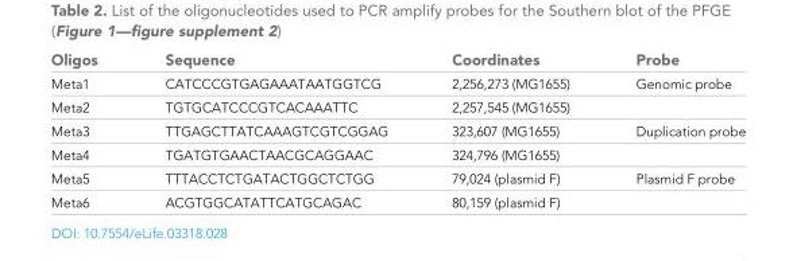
<table><thead><tr><td>Oligos</td><td>Sequence</td><td>Coordinates</td><td>Probe</td></tr></thead><tbody><tr><td>Meta1</td><td>CATCCCGTGAGAAATAATGGTCG</td><td>2,256,273 (MG1655)</td><td>Genomic probe</td></tr><tr><td>Meta2</td><td>TGTGCATCCCGTCACAAATTC</td><td>2,257,545 (MG1655)</td><td></td></tr><tr><td>Meta3</td><td>TTGAGCTTATCAAAGTCGTCGGAG</td><td>323,607 (MG1655)</td><td>Duplication probe</td></tr><tr><td>Meta4</td><td>TGATGTGAACTAACGCAGGAAC</td><td>324,796 (MG1655)</td><td></td></tr><tr><td>Meta5</td><td>TTTACCTCTGATACTGGCTCTGG</td><td>79,024 (plasmid F)</td><td>Plasmid F probe</td></tr><tr><td>Meta6</td><td>ACGTGGCATATTCATGCAGAC</td><td>80,159 (plasmid F)</td><td></td></tr></tbody></table>